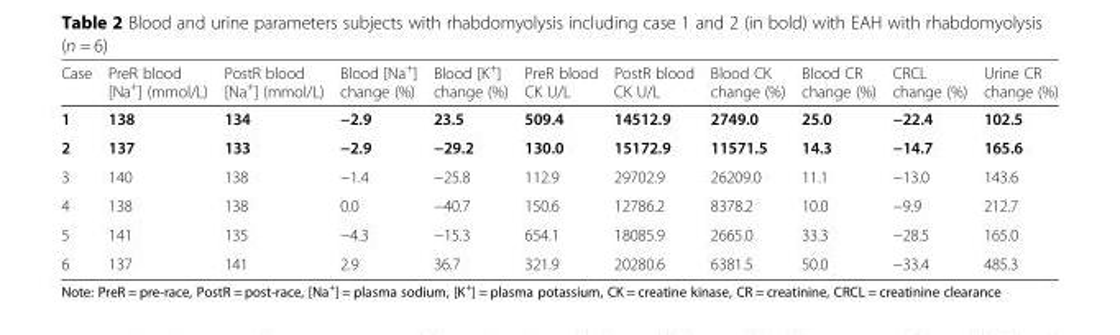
<table><thead><tr><td>Case</td><td>PreR blood [Na<sup>+</sup>] (mmol/L)</td><td>PostR blood [Na<sup>+</sup>] (mmol/L)</td><td>Blood [Na<sup>+</sup>] change (%)</td><td>Blood [K<sup>+</sup>] change (%)</td><td>PreR blood CK U/L</td><td>PostR blood CK U/L</td><td>Blood CK change (%)</td><td>Blood CR change (%)</td><td>CRCL change (%)</td><td>Urine CR change (%)</td></tr></thead><tbody><tr><td>1</td><td>138</td><td>134</td><td>−2.9</td><td>23.5</td><td>509.4</td><td>14512.9</td><td>2749.0</td><td>25.0</td><td>−22.4</td><td>102.5</td></tr><tr><td>2</td><td>137</td><td>133</td><td>−2.9</td><td>−29.2</td><td>130.0</td><td>15172.9</td><td>11571.5</td><td>14.3</td><td>−14.7</td><td>165.6</td></tr><tr><td>3</td><td>140</td><td>138</td><td>−1.4</td><td>−25.8</td><td>112.9</td><td>29702.9</td><td>26209.0</td><td>11.1</td><td>−13.0</td><td>143.6</td></tr><tr><td>4</td><td>138</td><td>138</td><td>0.0</td><td>−40.7</td><td>150.6</td><td>12786.2</td><td>8378.2</td><td>10.0</td><td>−9.9</td><td>212.7</td></tr><tr><td>5</td><td>141</td><td>135</td><td>−4.3</td><td>−15.3</td><td>654.1</td><td>18085.9</td><td>2665.0</td><td>33.3</td><td>−28.5</td><td>165.0</td></tr><tr><td>6</td><td>137</td><td>141</td><td>2.9</td><td>36.7</td><td>321.9</td><td>20280.6</td><td>6381.5</td><td>50.0</td><td>−33.4</td><td>485.3</td></tr></tbody></table>